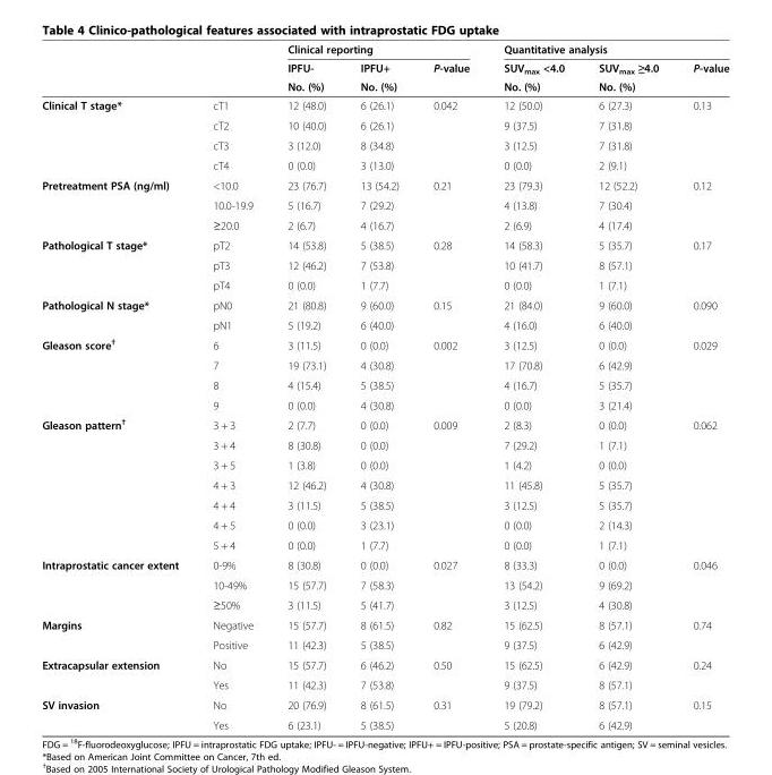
<table><thead><tr><td rowspan="3"></td><td rowspan="3"></td><td colspan="3">Clinical reporting</td><td colspan="3">Quantitative analysis</td></tr><tr><td rowspan="2">IPFU- No. (%)</td><td rowspan="2">IPFU+ No. (%)</td><td rowspan="2">P-value</td><td rowspan="2">SUV<sub>max</sub> &lt;4.0 No. (%)</td><td rowspan="2">SUV<sub>max</sub> ≥4.0 No. (%)</td><td rowspan="2">P-value</td></tr><tr></tr></thead><tbody><tr><td rowspan="4">Clinical T stage*</td><td>cT1</td><td>12 (48.0)</td><td>6 (26.1)</td><td>0.042</td><td>12 (50.0)</td><td>6 (27.3)</td><td>0.13</td></tr><tr><td>cT2</td><td>10 (40.0)</td><td>6 (26.1)</td><td></td><td>9 (37.5)</td><td>7 (31.8)</td><td></td></tr><tr><td>cT3</td><td>3 (12.0)</td><td>8 (34.8)</td><td></td><td>3 (12.5)</td><td>7 (31.8)</td><td></td></tr><tr><td>cT4</td><td>0 (0.0)</td><td>3 (13.0)</td><td></td><td>0 (0.0)</td><td>2 (9.1)</td><td></td></tr><tr><td rowspan="3">Pretreatment PSA (ng/ml)</td><td>&lt;10.0</td><td>23 (76.7)</td><td>13 (54.2)</td><td>0.21</td><td>23 (79.3)</td><td>12 (52.2)</td><td>0.12</td></tr><tr><td>10.0-19.9</td><td>5 (16.7)</td><td>7 (29.2)</td><td></td><td>4 (13.8)</td><td>7 (30.4)</td><td></td></tr><tr><td>≥20.0</td><td>2 (6.7)</td><td>4 (16.7)</td><td></td><td>2 (6.9)</td><td>4 (17.4)</td><td></td></tr><tr><td rowspan="3">Pathological T stage*</td><td>pT2</td><td>14 (53.8)</td><td>5 (38.5)</td><td>0.28</td><td>14 (58.3)</td><td>5 (35.7)</td><td>0.17</td></tr><tr><td>pT3</td><td>12 (46.2)</td><td>7 (53.8)</td><td></td><td>10 (41.7)</td><td>8 (57.1)</td><td></td></tr><tr><td>pT4</td><td>0 (0.0)</td><td>1 (7.7)</td><td></td><td>0 (0.0)</td><td>1 (7.1)</td><td></td></tr><tr><td rowspan="2">Pathological N stage*</td><td>pN0</td><td>21 (80.8)</td><td>9 (60.0)</td><td>0.15</td><td>21 (84.0)</td><td>9 (60.0)</td><td>0.090</td></tr><tr><td>pN1</td><td>5 (19.2)</td><td>6 (40.0)</td><td></td><td>4 (16.0)</td><td>6 (40.0)</td><td></td></tr><tr><td rowspan="4">Gleason score<sup>†</sup></td><td>6</td><td>3 (11.5)</td><td>0 (0.0)</td><td>0.002</td><td>3 (12.5)</td><td>0 (0.0)</td><td>0.029</td></tr><tr><td>7</td><td>19 (73.1)</td><td>4 (30.8)</td><td></td><td>17 (70.8)</td><td>6 (42.9)</td><td></td></tr><tr><td>8</td><td>4 (15.4)</td><td>5 (38.5)</td><td></td><td>4 (16.7)</td><td>5 (35.7)</td><td></td></tr><tr><td>9</td><td>0 (0.0)</td><td>4 (30.8)</td><td></td><td>0 (0.0)</td><td>3 (21.4)</td><td></td></tr><tr><td rowspan="7">Gleason pattern<sup>†</sup></td><td>3 + 3</td><td>2 (7.7)</td><td>0 (0.0)</td><td>0.009</td><td>2 (8.3)</td><td>0 (0.0)</td><td>0.062</td></tr><tr><td>3 + 4</td><td>8 (30.8)</td><td>0 (0.0)</td><td></td><td>7 (29.2)</td><td>1 (7.1)</td><td></td></tr><tr><td>3 + 5</td><td>1 (3.8)</td><td>0 (0.0)</td><td></td><td>1 (4.2)</td><td>0 (0.0)</td><td></td></tr><tr><td>4 + 3</td><td>12 (46.2)</td><td>4 (30.8)</td><td></td><td>11 (45.8)</td><td>5 (35.7)</td><td></td></tr><tr><td>4 + 4</td><td>3 (11.5)</td><td>5 (38.5)</td><td></td><td>3 (12.5)</td><td>5 (35.7)</td><td></td></tr><tr><td>4 + 5</td><td>0 (0.0)</td><td>3 (23.1)</td><td></td><td>0 (0.0)</td><td>2 (14.3)</td><td></td></tr><tr><td>5 + 4</td><td>0 (0.0)</td><td>1 (7.7)</td><td></td><td>0 (0.0)</td><td>1 (7.1)</td><td></td></tr><tr><td rowspan="3">Intraprostatic cancer extent</td><td>0-9%</td><td>8 (30.8)</td><td>0 (0.0)</td><td>0.027</td><td>8 (33.3)</td><td>0 (0.0)</td><td>0.046</td></tr><tr><td>10-49%</td><td>15 (57.7)</td><td>7 (58.3)</td><td></td><td>13 (54.2)</td><td>9 (69.2)</td><td></td></tr><tr><td>≥50%</td><td>3 (11.5)</td><td>5 (41.7)</td><td></td><td>3 (12.5)</td><td>4 (30.8)</td><td></td></tr><tr><td rowspan="2">Margins</td><td>Negative</td><td>15 (57.7)</td><td>8 (61.5)</td><td>0.82</td><td>15 (62.5)</td><td>8 (57.1)</td><td>0.74</td></tr><tr><td>Positive</td><td>11 (42.3)</td><td>5 (38.5)</td><td></td><td>9 (37.5)</td><td>6 (42.9)</td><td></td></tr><tr><td rowspan="2">Extracapsular extension</td><td>No</td><td>15 (57.7)</td><td>6 (46.2)</td><td>0.50</td><td>15 (62.5)</td><td>6 (42.9)</td><td>0.24</td></tr><tr><td>Yes</td><td>11 (42.3)</td><td>7 (53.8)</td><td></td><td>9 (37.5)</td><td>8 (57.1)</td><td></td></tr><tr><td rowspan="2">SV invasion</td><td>No</td><td>20 (76.9)</td><td>8 (61.5)</td><td>0.31</td><td>19 (79.2)</td><td>8 (57.1)</td><td>0.15</td></tr><tr><td>Yes</td><td>6 (23.1)</td><td>5 (38.5)</td><td></td><td>5 (20.8)</td><td>6 (42.9)</td><td></td></tr></tbody></table>